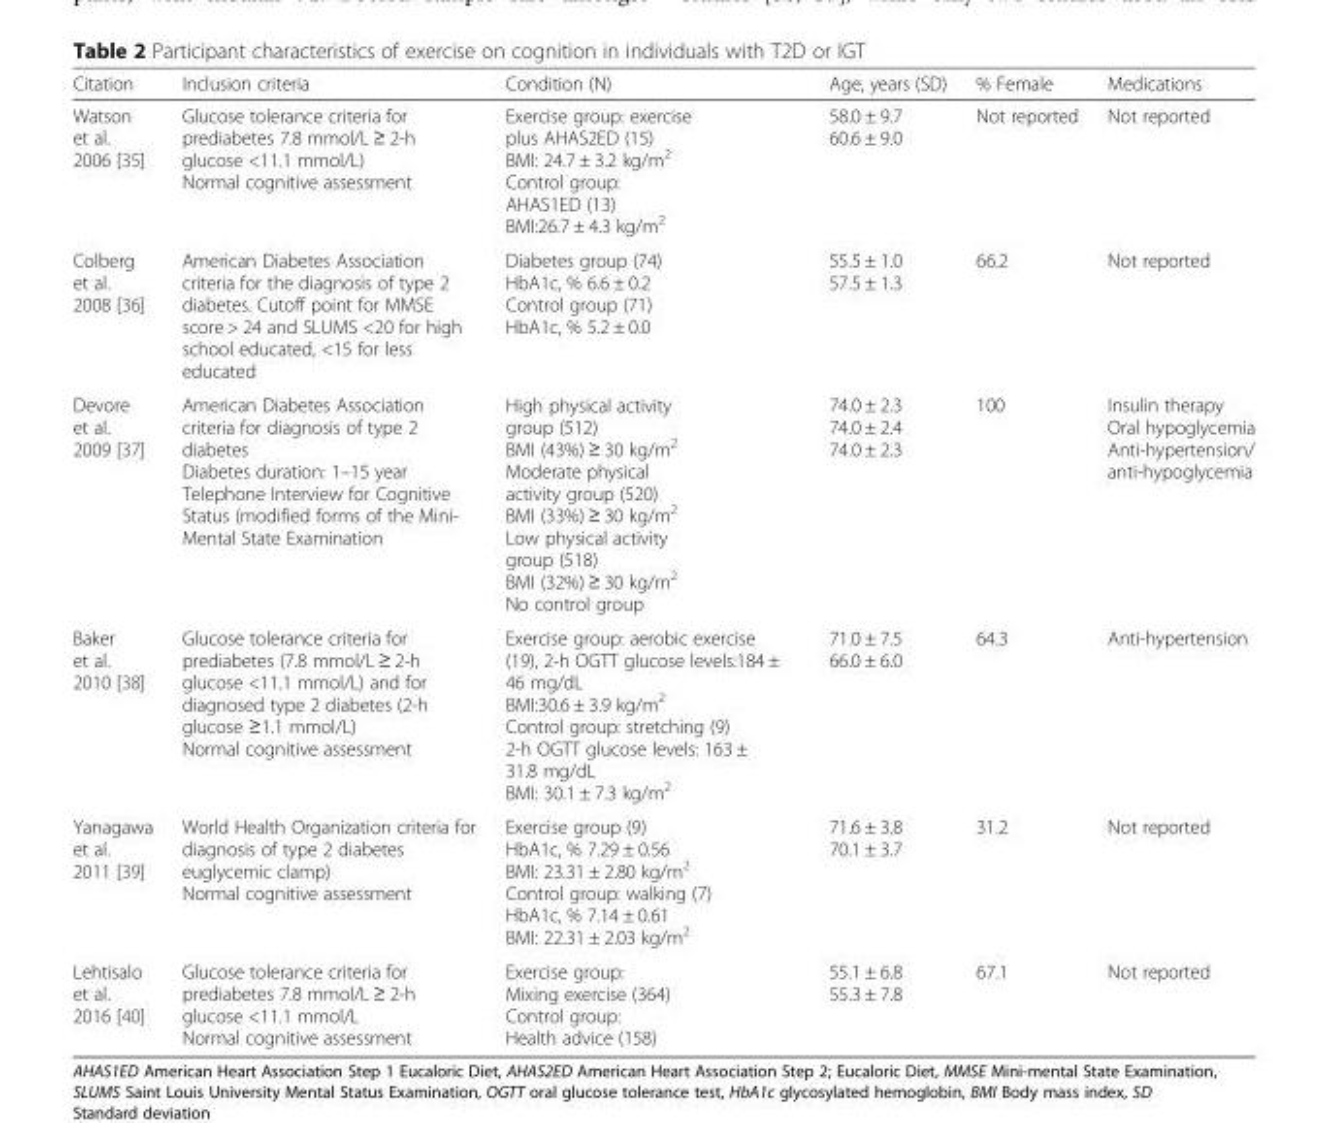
<table><thead><tr><td>Citation</td><td>Inclusion criteria</td><td>Condition (N)</td><td>Age, years (SD)</td><td>% Female</td><td>Medications</td></tr></thead><tbody><tr><td>Watson et al. 2006 [35]</td><td>Glucose tolerance criteria for prediabetes 7.8 mmol/L ≥ 2-h glucose &lt;11.1 mmol/L) Normal cognitive assessment</td><td>Exercise group: exercise plus AHAS2ED (15) BMI: 24.7 ± 3.2 kg/m<sup>2</sup> Control group: AHAS1ED (13) BMI:26.7 ± 4.3 kg/m<sup>2</sup></td><td>58.0 ± 9.7 60.6 ± 9.0</td><td>Not reported</td><td>Not reported</td></tr><tr><td>Colberg et al. 2008 [36]</td><td>American Diabetes Association criteria for the diagnosis of type 2 diabetes. Cutoff point for MMSE score &gt; 24 and SLUMS &lt;20 for high school educated, &lt;15 for less educated</td><td>Diabetes group (74) HbA1c, % 6.6 ± 0.2 Control group (71) HbA1c, % 5.2 ± 0.0</td><td>55.5 ± 1.0 57.5 ± 1.3</td><td>66.2</td><td>Not reported</td></tr><tr><td>Devore et al. 2009 [37]</td><td>American Diabetes Association criteria for diagnosis of type 2 diabetes Diabetes duration: 1–15 year Telephone Interview for Cognitive Status (modified forms of the Mini- Mental State Examination</td><td>High physical activity group (512) BMI (43%) ≥ 30 kg/m<sup>2</sup> Moderate physical activity group (520) BMI (33%) ≥ 30 kg/m<sup>2</sup> Low physical activity group (518) BMI (32%) ≥ 30 kg/m<sup>2</sup> No control group</td><td>74.0 ± 2.3 74.0 ± 2.4 74.0 ± 2.3</td><td>100</td><td>Insulin therapy Oral hypoglycemia Anti-hypertension/ anti-hypoglycemia</td></tr><tr><td>Baker et al. 2010 [38]</td><td>Glucose tolerance criteria for prediabetes (7.8 mmol/L ≥ 2-h glucose &lt;11.1 mmol/L) and for diagnosed type 2 diabetes (2-h glucose ≥1.1 mmol/L) Normal cognitive assessment</td><td>Exercise group: aerobic exercise (19), 2-h OGTT glucose levels:184 ± 46 mg/dL BMI:30.6 ± 3.9 kg/m<sup>2</sup> Control group: stretching (9) 2-h OGTT glucose levels: 163 ± 31.8 mg/dL BMI: 30.1 ± 7.3 kg/m<sup>2</sup></td><td>71.0 ± 7.5 66.0 ± 6.0</td><td>64.3</td><td>Anti-hypertension</td></tr><tr><td>Yanagawa et al. 2011 [39]</td><td>World Health Organization criteria for diagnosis of type 2 diabetes euglycemic clamp) Normal cognitive assessment</td><td>Exercise group (9) HbA1c, % 7.29 ± 0.56 BMI: 23.31 ± 2.80 kg/m<sup>2</sup> Control group: walking (7) HbA1c, % 7.14 ± 0.61 BMI: 22.31 ± 2.03 kg/m<sup>2</sup></td><td>71.6 ± 3.8 70.1 ± 3.7</td><td>31.2</td><td>Not reported</td></tr><tr><td>Lehtisalo et al. 2016 [40]</td><td>Glucose tolerance criteria for prediabetes 7.8 mmol/L ≥ 2-h glucose &lt;11.1 mmol/L Normal cognitive assessment</td><td>Exercise group: Mixing exercise (364) Control group: Health advice (158)</td><td>55.1 ± 6.8 55.3 ± 7.8</td><td>67.1</td><td>Not reported</td></tr></tbody></table>